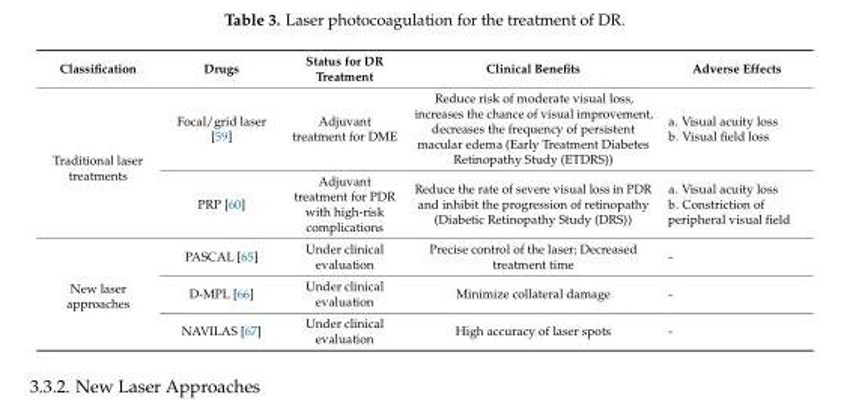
<table><thead><tr><td>Classification</td><td>Drugs</td><td>Status for DR Treatment</td><td>Clinical Benefits</td><td>Adverse Effects</td></tr></thead><tbody><tr><td rowspan="2">Traditional laser treatments</td><td>Focal/grid laser [59]</td><td>Adjuvant treatment for DME</td><td>Reduce risk of moderate visual loss, increases the chance of visual improvement, decreases the frequency of persistent macular edema (Early Treatment Diabetes Retinopathy Study (ETDRS))</td><td>a. Visual acuity loss b. Visual field loss</td></tr><tr><td>PRP [60]</td><td>Adjuvant treatment for PDR with high-risk complications</td><td>Reduce the rate of severe visual loss in PDR and inhibit the progression of retinopathy (Diabetic Retinopathy Study (DRS))</td><td>a. Visual acuity loss b. Constriction of peripheral visual field</td></tr><tr><td rowspan="3">New laser approaches</td><td>PASCAL [65]</td><td>Under clinical evaluation</td><td>Precise control of the laser; Decreased treatment time</td><td>-</td></tr><tr><td>D-MPL [66]</td><td>Under clinical evaluation</td><td>Minimize collateral damage</td><td>-</td></tr><tr><td>NAVILAS [67]</td><td>Under clinical evaluation</td><td>High accuracy of laser spots</td><td>-</td></tr></tbody></table>